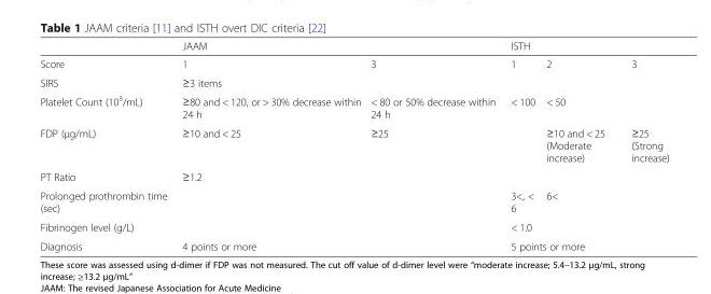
<table><thead><tr><td rowspan="2">Score</td><td colspan="2">JAAM</td><td colspan="3">ISTH</td></tr><tr><td>1</td><td>3</td><td>1</td><td>2</td><td>3</td></tr></thead><tbody><tr><td>SIRS</td><td>≥3 items</td><td></td><td></td><td></td><td></td></tr><tr><td>Platelet Count (10<sup>3</sup>/mL)</td><td>≥80 and &lt; 120, or &gt; 30% decrease within 24 h</td><td>&lt; 80 or 50% decrease within 24 h</td><td>&lt; 100</td><td>&lt; 50</td><td></td></tr><tr><td>FDP (μg/mL)</td><td>≥10 and &lt; 25</td><td>≥25</td><td></td><td>≥10 and &lt; 25 (Moderate increase)</td><td>≥25 (Strong increase)</td></tr><tr><td>PT Ratio</td><td>≥1.2</td><td></td><td></td><td></td><td></td></tr><tr><td>Prolonged prothrombin time (sec)</td><td></td><td></td><td>3&lt;, &lt; 6</td><td>6&lt;</td><td></td></tr><tr><td>Fibrinogen level (g/L)</td><td></td><td></td><td>&lt; 1.0</td><td></td><td></td></tr><tr><td>Diagnosis</td><td colspan="2">4 points or more</td><td colspan="3">5 points or more</td></tr></tbody></table>